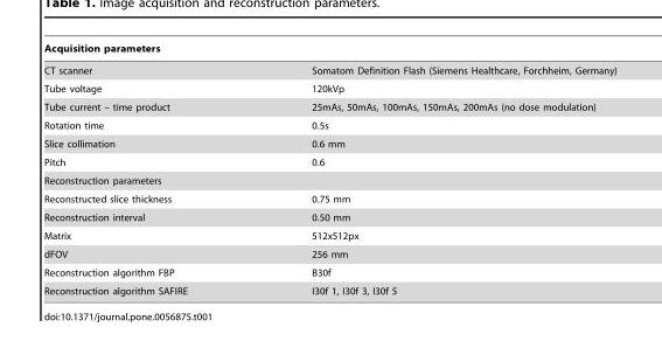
<table><thead><tr><td colspan="2">Acquisition parameters</td></tr><tr><td>CT scanner</td><td>Somatom Definition Flash (Siemens Healthcare, Forchheim, Germany)</td></tr></thead><tbody><tr><td>Tube voltage</td><td>120kVp</td></tr><tr><td>Tube current – time product</td><td>25mAs, 50mAs, 100mAs, 150mAs, 200mAs (no dose modulation)</td></tr><tr><td>Rotation time</td><td>0.5s</td></tr><tr><td>Slice collimation</td><td>0.6 mm</td></tr><tr><td>Pitch</td><td>0.6</td></tr><tr><td colspan="2">Reconstruction parameters</td></tr><tr><td>Reconstructed slice thickness</td><td>0.75 mm</td></tr><tr><td>Reconstruction interval</td><td>0.50 mm</td></tr><tr><td>Matrix</td><td>512x512px</td></tr><tr><td>dFOV</td><td>256 mm</td></tr><tr><td>Reconstruction algorithm FBP</td><td>B30f</td></tr><tr><td>Reconstruction algorithm SAFIRE</td><td>I30f 1, I30f 3, I30f 5</td></tr></tbody></table>